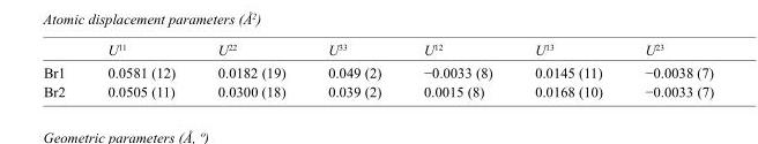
<table><thead><tr><td></td><td>U<sup>11</sup></td><td>U<sup>22</sup></td><td>U<sup>33</sup></td><td>U<sup>12</sup></td><td>U<sup>13</sup></td><td>U<sup>23</sup></td></tr></thead><tbody><tr><td>Br1</td><td>0.0581 (12)</td><td>0.0182 (19)</td><td>0.049 (2)</td><td>−0.0033 (8)</td><td>0.0145 (11)</td><td>−0.0038 (7)</td></tr><tr><td>Br2</td><td>0.0505 (11)</td><td>0.0300 (18)</td><td>0.039 (2)</td><td>0.0015 (8)</td><td>0.0168 (10)</td><td>−0.0033 (7)</td></tr></tbody></table>